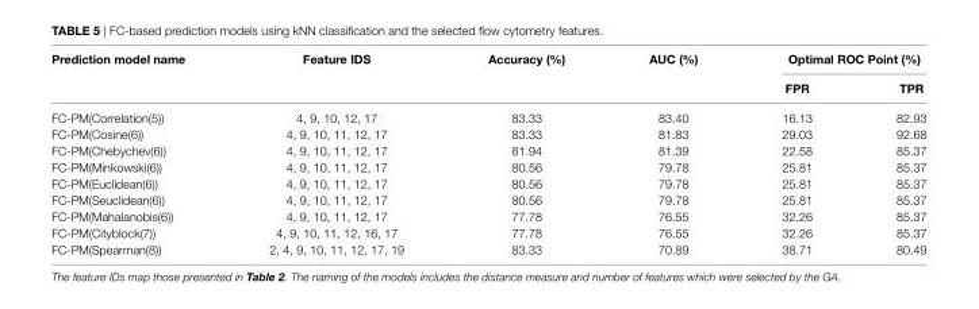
<table><thead><tr><td rowspan="2">Prediction model name</td><td rowspan="2">Feature iDs</td><td rowspan="2">accuracy (%)</td><td rowspan="2">aUc (%)</td><td colspan="2">Optimal rOc Point (%)</td></tr><tr><td>FPr</td><td>TPr</td></tr></thead><tbody><tr><td>FC-PM(Correlation(5))</td><td>4, 9, 10, 12, 17</td><td>83.33</td><td>83.40</td><td>16.13</td><td>82.93</td></tr><tr><td>FC-PM(Cosine(6))</td><td>4, 9, 10, 11, 12, 17</td><td>83.33</td><td>81.83</td><td>29.03</td><td>92.68</td></tr><tr><td>FC-PM(Chebychev(6))</td><td>4, 9, 10, 11, 12, 17</td><td>81.94</td><td>81.39</td><td>22.58</td><td>85.37</td></tr><tr><td>FC-PM(Minkowski(6))</td><td>4, 9, 10, 11, 12, 17</td><td>80.56</td><td>79.78</td><td>25.81</td><td>85.37</td></tr><tr><td>FC-PM(Euclidean(6))</td><td>4, 9, 10, 11, 12, 17</td><td>80.56</td><td>79.78</td><td>25.81</td><td>85.37</td></tr><tr><td>FC-PM(Seuclidean(6))</td><td>4, 9, 10, 11, 12, 17</td><td>80.56</td><td>79.78</td><td>25.81</td><td>85.37</td></tr><tr><td>FC-PM(Mahalanobis(6))</td><td>4, 9, 10, 11, 12, 17</td><td>77.78</td><td>76.55</td><td>32.26</td><td>85.37</td></tr><tr><td>FC-PM(Cityblock(7))</td><td>4, 9, 10, 11, 12, 16, 17</td><td>77.78</td><td>76.55</td><td>32.26</td><td>85.37</td></tr><tr><td>FC-PM(Spearman(8))</td><td>2, 4, 9, 10, 11, 12, 17, 19</td><td>83.33</td><td>70.89</td><td>38.71</td><td>80.49</td></tr></tbody></table>